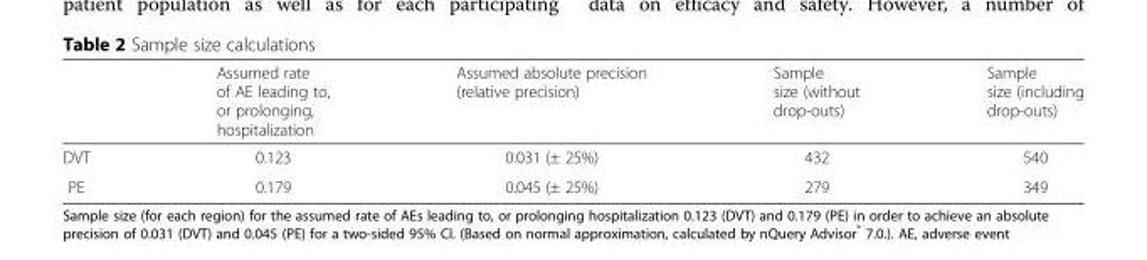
<table><thead><tr><td></td><td>Assumed rate of AE leading to, or prolonging, hospitalization</td><td>Assumed absolute precision (relative precision)</td><td>Sample size (without drop-outs)</td><td>Sample size (including drop-outs)</td></tr></thead><tbody><tr><td>DVT</td><td>0.123</td><td>0.031 (± 25%)</td><td>432</td><td>540</td></tr><tr><td>PE</td><td>0.179</td><td>0.045 (± 25%)</td><td>279</td><td>349</td></tr></tbody></table>